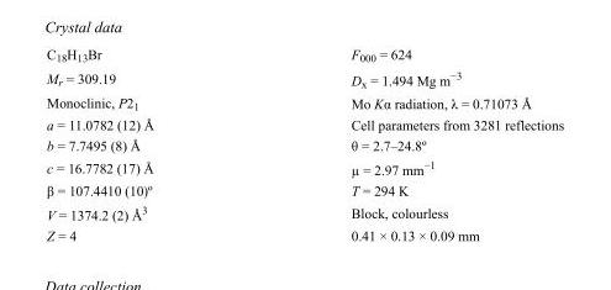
<table><tbody><tr><td>C<sub>18</sub>H<sub>13</sub>Br</td><td>F000 = 624</td></tr><tr><td>M<sub>r</sub> = 309.19</td><td>D<sub>x</sub> = 1.494 Mg m<sup>−3</sup></td></tr><tr><td>Monoclinic, P2<sub>1</sub></td><td>Mo Kα radiation, λ = 0.71073 Å</td></tr><tr><td>a = 11.0782 (12) Å</td><td>Cell parameters from 3281 reflections</td></tr><tr><td>b = 7.7495 (8) Å</td><td>θ = 2.7–24.8º</td></tr><tr><td>c = 16.7782 (17) Å</td><td>µ = 2.97 mm<sup>−1</sup></td></tr><tr><td>β = 107.4410 (10)º</td><td>T = 294 K</td></tr><tr><td>V = 1374.2 (2) Å<sup>3</sup></td><td>Block, colourless</td></tr><tr><td>Z = 4</td><td>0.41 × 0.13 × 0.09 mm</td></tr></tbody></table>